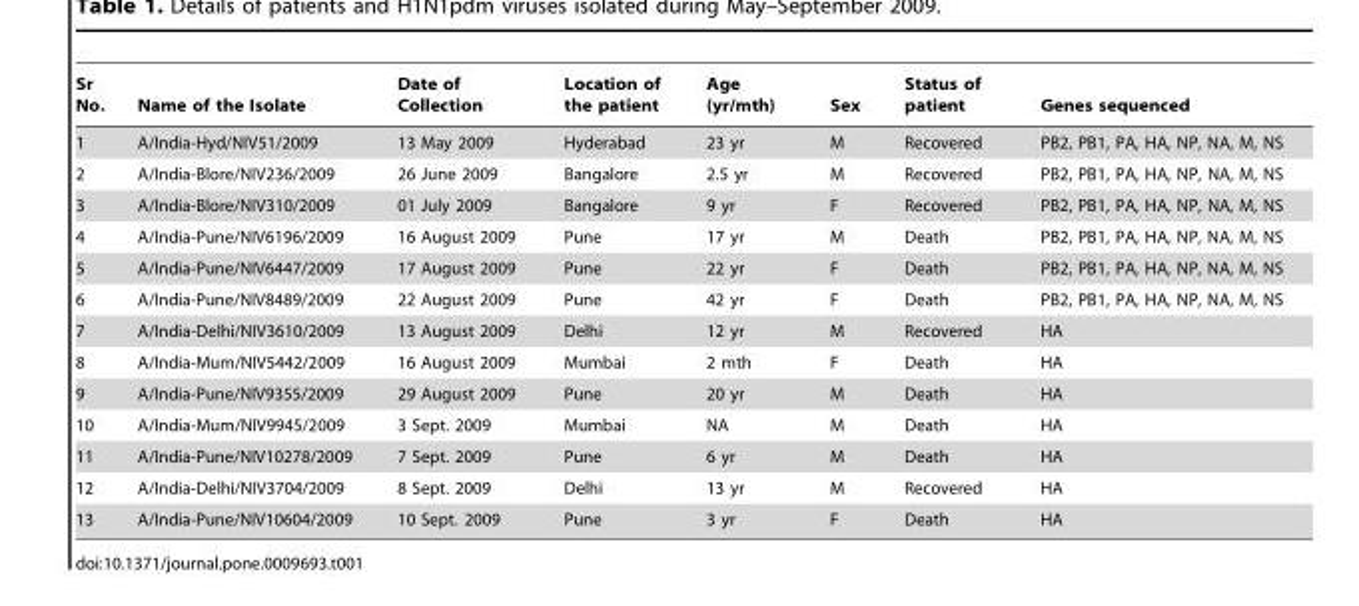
<table><thead><tr><td>Sr No.</td><td>Name of the Isolate</td><td>Date of Collection</td><td>Location of the patient</td><td>Age (yr/mth)</td><td>Sex</td><td>Status of patient</td><td>Genes sequenced</td></tr></thead><tbody><tr><td>1</td><td>A/India-Hyd/NIV51/2009</td><td>13 May 2009</td><td>Hyderabad</td><td>23 yr</td><td>M</td><td>Recovered</td><td>PB2, PB1, PA, HA, NP, NA, M, NS</td></tr><tr><td>2</td><td>A/India-Blore/NIV236/2009</td><td>26 June 2009</td><td>Bangalore</td><td>2.5 yr</td><td>M</td><td>Recovered</td><td>PB2, PB1, PA, HA, NP, NA, M, NS</td></tr><tr><td>3</td><td>A/India-Blore/NIV310/2009</td><td>01 July 2009</td><td>Bangalore</td><td>9 yr</td><td>F</td><td>Recovered</td><td>PB2, PB1, PA, HA, NP, NA, M, NS</td></tr><tr><td>4</td><td>A/India-Pune/NIV6196/2009</td><td>16 August 2009</td><td>Pune</td><td>17 yr</td><td>M</td><td>Death</td><td>PB2, PB1, PA, HA, NP, NA, M, NS</td></tr><tr><td>5</td><td>A/India-Pune/NIV6447/2009</td><td>17 August 2009</td><td>Pune</td><td>22 yr</td><td>F</td><td>Death</td><td>PB2, PB1, PA, HA, NP, NA, M, NS</td></tr><tr><td>6</td><td>A/India-Pune/NIV8489/2009</td><td>22 August 2009</td><td>Pune</td><td>42 yr</td><td>F</td><td>Death</td><td>PB2, PB1, PA, HA, NP, NA, M, NS</td></tr><tr><td>7</td><td>A/India-Delhi/NIV3610/2009</td><td>13 August 2009</td><td>Delhi</td><td>12 yr</td><td>M</td><td>Recovered</td><td>HA</td></tr><tr><td>8</td><td>A/India-Mum/NIV5442/2009</td><td>16 August 2009</td><td>Mumbai</td><td>2 mth</td><td>F</td><td>Death</td><td>HA</td></tr><tr><td>9</td><td>A/India-Pune/NIV9355/2009</td><td>29 August 2009</td><td>Pune</td><td>20 yr</td><td>M</td><td>Death</td><td>HA</td></tr><tr><td>10</td><td>A/India-Mum/NIV9945/2009</td><td>3 Sept. 2009</td><td>Mumbai</td><td>NA</td><td>M</td><td>Death</td><td>HA</td></tr><tr><td>11</td><td>A/India-Pune/NIV10278/2009</td><td>7 Sept. 2009</td><td>Pune</td><td>6 yr</td><td>M</td><td>Death</td><td>HA</td></tr><tr><td>12</td><td>A/India-Delhi/NIV3704/2009</td><td>8 Sept. 2009</td><td>Delhi</td><td>13 yr</td><td>M</td><td>Recovered</td><td>HA</td></tr><tr><td>13</td><td>A/India-Pune/NIV10604/2009</td><td>10 Sept. 2009</td><td>Pune</td><td>3 yr</td><td>F</td><td>Death</td><td>HA</td></tr></tbody></table>